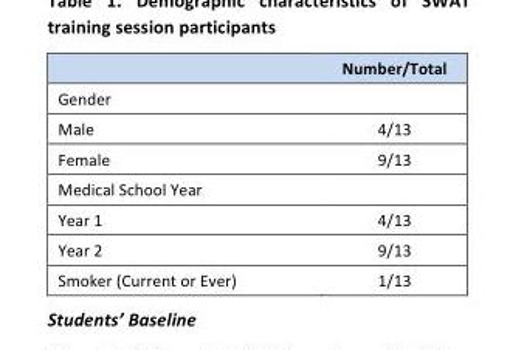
<table><thead><tr><td></td><td>Number/Total</td></tr></thead><tbody><tr><td colspan="2">Gender</td></tr><tr><td>Male</td><td>4/13</td></tr><tr><td>Female</td><td>9/13</td></tr><tr><td colspan="2">Medical School Year</td></tr><tr><td>Year 1</td><td>4/13</td></tr><tr><td>Year 2</td><td>9/13</td></tr><tr><td>Smoker (Current or Ever)</td><td>1/13</td></tr></tbody></table>